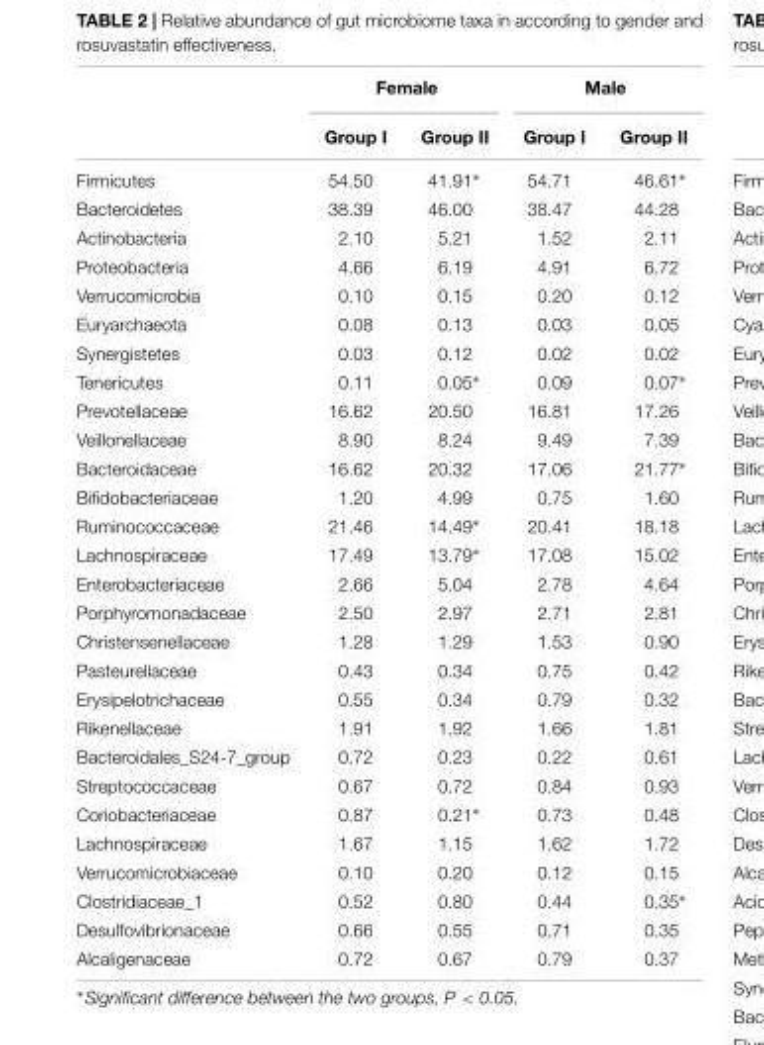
<table><thead><tr><td rowspan="2"></td><td colspan="2">Female</td><td colspan="2">Male</td></tr><tr><td>Group I</td><td>Group II</td><td>Group I</td><td>Group II</td></tr></thead><tbody><tr><td>Firmicutes</td><td>54.50</td><td>41.91∗</td><td>54.71</td><td>46.61∗</td></tr><tr><td>Bacteroidetes</td><td>38.39</td><td>46.00</td><td>38.47</td><td>44.28</td></tr><tr><td>Actinobacteria</td><td>2.10</td><td>5.21</td><td>1.52</td><td>2.11</td></tr><tr><td>Proteobacteria</td><td>4.66</td><td>6.19</td><td>4.91</td><td>6.72</td></tr><tr><td>Verrucomicrobia</td><td>0.10</td><td>0.15</td><td>0.20</td><td>0.12</td></tr><tr><td>Euryarchaeota</td><td>0.08</td><td>0.13</td><td>0.03</td><td>0.05</td></tr><tr><td>Synergistetes</td><td>0.03</td><td>0.12</td><td>0.02</td><td>0.02</td></tr><tr><td>Tenericutes</td><td>0.11</td><td>0.05∗</td><td>0.09</td><td>0.07∗</td></tr><tr><td>Prevotellaceae</td><td>16.62</td><td>20.50</td><td>16.81</td><td>17.26</td></tr><tr><td>Veillonellaceae</td><td>8.90</td><td>8.24</td><td>9.49</td><td>7.39</td></tr><tr><td>Bacteroidaceae</td><td>16.62</td><td>20.32</td><td>17.06</td><td>21.77∗</td></tr><tr><td>Bifidobacteriaceae</td><td>1.20</td><td>4.99</td><td>0.75</td><td>1.60</td></tr><tr><td>Ruminococcaceae</td><td>21.46</td><td>14.49∗</td><td>20.41</td><td>18.18</td></tr><tr><td>Lachnospiraceae</td><td>17.49</td><td>13.79∗</td><td>17.08</td><td>15.02</td></tr><tr><td>Enterobacteriaceae</td><td>2.66</td><td>5.04</td><td>2.78</td><td>4.64</td></tr><tr><td>Porphyromonadaceae</td><td>2.50</td><td>2.97</td><td>2.71</td><td>2.81</td></tr><tr><td>Christensenellaceae</td><td>1.28</td><td>1.29</td><td>1.53</td><td>0.90</td></tr><tr><td>Pasteurellaceae</td><td>0.43</td><td>0.34</td><td>0.75</td><td>0.42</td></tr><tr><td>Erysipelotrichaceae</td><td>0.55</td><td>0.34</td><td>0.79</td><td>0.32</td></tr><tr><td>Rikenellaceae</td><td>1.91</td><td>1.92</td><td>1.66</td><td>1.81</td></tr><tr><td>Bacteroidales_S24-7_group</td><td>0.72</td><td>0.23</td><td>0.22</td><td>0.61</td></tr><tr><td>Streptococcaceae</td><td>0.67</td><td>0.72</td><td>0.84</td><td>0.93</td></tr><tr><td>Coriobacteriaceae</td><td>0.87</td><td>0.21∗</td><td>0.73</td><td>0.48</td></tr><tr><td>Lachnospiraceae</td><td>1.67</td><td>1.15</td><td>1.62</td><td>1.72</td></tr><tr><td>Verrucomicrobiaceae</td><td>0.10</td><td>0.20</td><td>0.12</td><td>0.15</td></tr><tr><td>Clostridiaceae_1</td><td>0.52</td><td>0.80</td><td>0.44</td><td>0.35∗</td></tr><tr><td>Desulfovibrionaceae</td><td>0.66</td><td>0.55</td><td>0.71</td><td>0.35</td></tr><tr><td>Alcaligenaceae</td><td>0.72</td><td>0.67</td><td>0.79</td><td>0.37</td></tr></tbody></table>